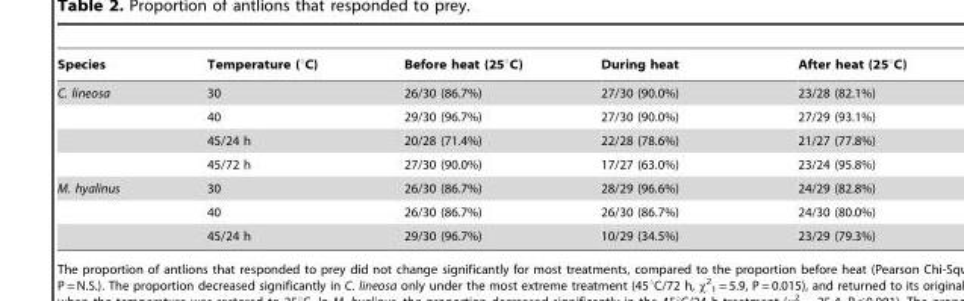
<table><thead><tr><td>Species</td><td>Temperature (°C)</td><td>Before heat (25°C)</td><td>During heat</td><td>After heat (25°C)</td></tr></thead><tbody><tr><td rowspan="4">C. lineosa</td><td>30</td><td>26/30 (86.7%)</td><td>27/30 (90.0%)</td><td>23/28 (82.1%)</td></tr><tr><td>40</td><td>29/30 (96.7%)</td><td>27/30 (90.0%)</td><td>27/29 (93.1%)</td></tr><tr><td>45/24 h</td><td>20/28 (71.4%)</td><td>22/28 (78.6%)</td><td>21/27 (77.8%)</td></tr><tr><td>45/72 h</td><td>27/30 (90.0%)</td><td>17/27 (63.0%)</td><td>23/24 (95.8%)</td></tr><tr><td rowspan="3">M. hyalinus</td><td>30</td><td>26/30 (86.7%)</td><td>28/29 (96.6%)</td><td>24/29 (82.8%)</td></tr><tr><td>40</td><td>26/30 (86.7%)</td><td>26/30 (86.7%)</td><td>24/30 (80.0%)</td></tr><tr><td>45/24 h</td><td>29/30 (96.7%)</td><td>10/29 (34.5%)</td><td>23/29 (79.3%)</td></tr></tbody></table>